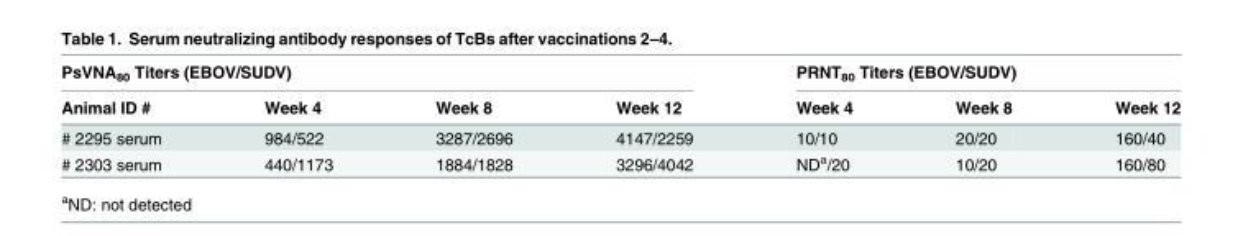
<table><thead><tr><td colspan="4">PsVNA<sub>80</sub> Titers (EBOV/SUDV)</td><td colspan="3">PRNT<sub>80</sub> Titers (EBOV/SUDV)</td></tr><tr><td>Animal ID #</td><td>Week 4</td><td>Week 8</td><td>Week 12</td><td>Week 4</td><td>Week 8</td><td>Week 12</td></tr></thead><tbody><tr><td># 2295 serum</td><td>984/522</td><td>3287/2696</td><td>4147/2259</td><td>10/10</td><td>20/20</td><td>160/40</td></tr><tr><td># 2303 serum</td><td>440/1173</td><td>1884/1828</td><td>3296/4042</td><td>ND<sup>a</sup>/20</td><td>10/20</td><td>160/80</td></tr></tbody></table>